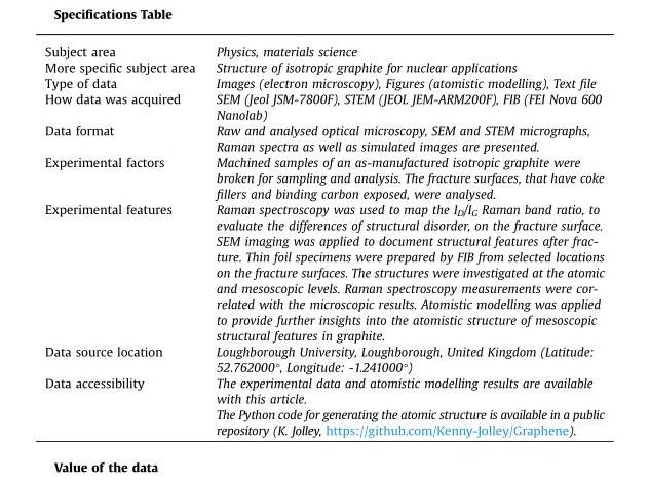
<table><tbody><tr><td>Subject area</td><td>Physics, materials science</td></tr><tr><td>More specific subject area</td><td>Structure of isotropic graphite for nuclear applications</td></tr><tr><td>Type of data</td><td>Images (electron microscopy), Figures (atomistic modelling), Text file</td></tr><tr><td>How data was acquired</td><td>SEM (Jeol JSM-7800F), STEM (JEOL JEM-ARM200F), FIB (FEI Nova 600 Nanolab)</td></tr><tr><td>Data format</td><td>Raw and analysed optical microscopy, SEM and STEM micrographs, Raman spectra as well as simulated images are presented.</td></tr><tr><td>Experimental factors</td><td>Machined samples of an as-manufactured isotropic graphite were broken for sampling and analysis. The fracture surfaces, that have coke fillers and binding carbon exposed, were analysed.</td></tr><tr><td>Experimental features</td><td>Raman spectroscopy was used to map the ID/IG Raman band ratio, to evaluate the differences of structural disorder, on the fracture surface. SEM imaging was applied to document structural features after frac- ture. Thin foil specimens were prepared by FIB from selected locations on the fracture surfaces. The structures were investigated at the atomic and mesoscopic levels. Raman spectroscopy measurements were cor- related with the microscopic results. Atomistic modelling was applied to provide further insights into the atomistic structure of mesoscopic structural features in graphite.</td></tr><tr><td>Data source location</td><td>Loughborough University, Loughborough, United Kingdom (Latitude: 52.762000°, Longitude: -1.241000°)</td></tr><tr><td rowspan="2">Data accessibility</td><td>The experimental data and atomistic modelling results are available with this article.</td></tr><tr><td>The Python code for generating the atomic structure is available in a public repository (K. Jolley, https://github.com/Kenny-Jolley/Graphene).</td></tr></tbody></table>